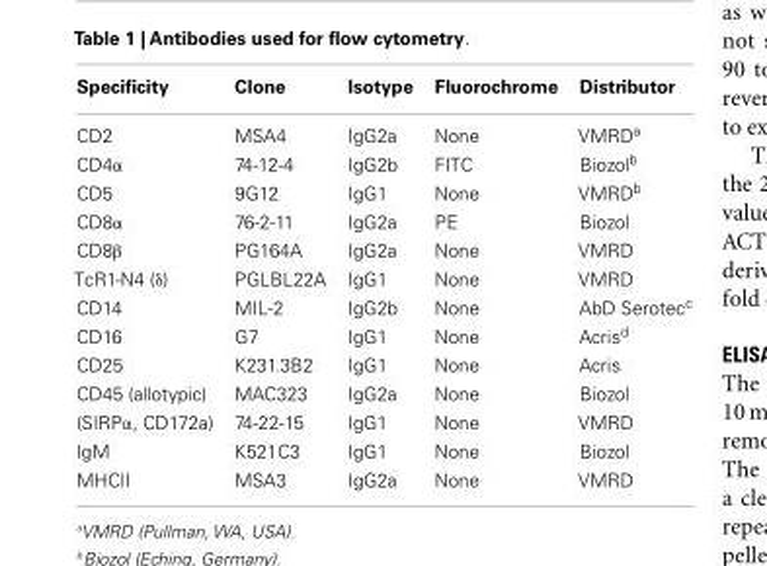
<table><thead><tr><td>Specificity</td><td>Clone</td><td>Isotype</td><td>Fluorochrome</td><td>Distributor</td></tr></thead><tbody><tr><td>CD2</td><td>MSA4</td><td>IgG2a</td><td>None</td><td>VMRD<sup>a</sup></td></tr><tr><td>CD4α</td><td>74-12-4</td><td>IgG2b</td><td>FITC</td><td>Biozol<sup>b</sup></td></tr><tr><td>CD5</td><td>9G12</td><td>IgG1</td><td>None</td><td>VMRD<sup>b</sup></td></tr><tr><td>CD8α</td><td>76-2-11</td><td>IgG2a</td><td>PE</td><td>Biozol</td></tr><tr><td>CD8β</td><td>PG164A</td><td>IgG2a</td><td>None</td><td>VMRD</td></tr><tr><td>TcR1-N4 (δ)</td><td>PGLBL22A</td><td>IgG1</td><td>None</td><td>VMRD</td></tr><tr><td>CD14</td><td>MIL-2</td><td>IgG2b</td><td>None</td><td>AbD Serotec<sup>c</sup></td></tr><tr><td>CD16</td><td>G7</td><td>IgG1</td><td>None</td><td>Acris<sup>d</sup></td></tr><tr><td>CD25</td><td>K231.3B2</td><td>IgG1</td><td>None</td><td>Acris</td></tr><tr><td>CD45 (allotypic)</td><td>MAC323</td><td>IgG2a</td><td>None</td><td>Biozol</td></tr><tr><td>(SIRPα, CD172a)</td><td>74-22-15</td><td>IgG1</td><td>None</td><td>VMRD</td></tr><tr><td>IgM</td><td>K521C3</td><td>IgG1</td><td>None</td><td>Biozol</td></tr><tr><td>MHCII</td><td>MSA3</td><td>IgG2a</td><td>None</td><td>VMRD</td></tr></tbody></table>